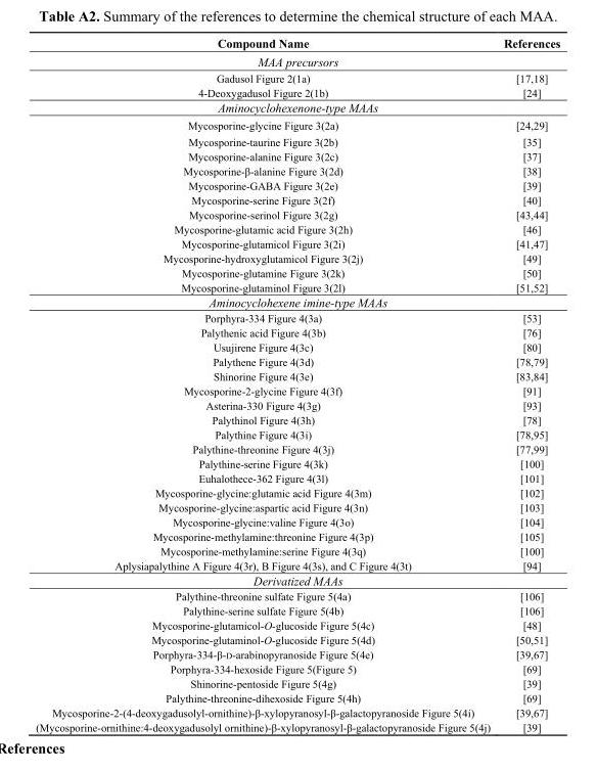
<table><thead><tr><td>Compound Name</td><td>References</td></tr></thead><tbody><tr><td colspan="2">MAA precursors</td></tr><tr><td>Gadusol Figure 2(1a)</td><td>[17,18]</td></tr><tr><td>4-Deoxygadusol Figure 2(1b)</td><td>[24]</td></tr><tr><td colspan="2">Aminocyclohexenone-type MAAs</td></tr><tr><td>Mycosporine-glycine Figure 3(2a)</td><td>[24,29]</td></tr><tr><td>Mycosporine-taurine Figure 3(2b)</td><td>[35]</td></tr><tr><td>Mycosporine-alanine Figure 3(2c)</td><td>[37]</td></tr><tr><td>Mycosporine-β-alanine Figure 3(2d)</td><td>[38]</td></tr><tr><td>Mycosporine-GABA Figure 3(2e)</td><td>[39]</td></tr><tr><td>Mycosporine-serine Figure 3(2f)</td><td>[40]</td></tr><tr><td>Mycosporine-serinol Figure 3(2g)</td><td>[43,44]</td></tr><tr><td>Mycosporine-glutamic acid Figure 3(2h)</td><td>[46]</td></tr><tr><td>Mycosporine-glutamicol Figure 3(2i)</td><td>[41,47]</td></tr><tr><td>Mycosporine-hydroxyglutamicol Figure 3(2j)</td><td>[49]</td></tr><tr><td>Mycosporine-glutamine Figure 3(2k)</td><td>[50]</td></tr><tr><td>Mycosporine-glutaminol Figure 3(2l)</td><td>[51,52]</td></tr><tr><td colspan="2">Aminocyclohexene imine-type MAAs</td></tr><tr><td>Porphyra-334 Figure 4(3a)</td><td>[53]</td></tr><tr><td>Palythenic acid Figure 4(3b)</td><td>[76]</td></tr><tr><td>Usujirene Figure 4(3c)</td><td>[80]</td></tr><tr><td>Palythene Figure 4(3d)</td><td>[78,79]</td></tr><tr><td>Shinorine Figure 4(3e)</td><td>[83,84]</td></tr><tr><td>Mycosporine-2-glycine Figure 4(3f)</td><td>[91]</td></tr><tr><td>Asterina-330 Figure 4(3g)</td><td>[93]</td></tr><tr><td>Palythinol Figure 4(3h)</td><td>[78]</td></tr><tr><td>Palythine Figure 4(3i)</td><td>[78,95]</td></tr><tr><td>Palythine-threonine Figure 4(3j)</td><td>[77,99]</td></tr><tr><td>Palythine-serine Figure 4(3k)</td><td>[100]</td></tr><tr><td>Euhalothece-362 Figure 4(3l)</td><td>[101]</td></tr><tr><td>Mycosporine-glycine:glutamic acid Figure 4(3m)</td><td>[102]</td></tr><tr><td>Mycosporine-glycine:aspartic acid Figure 4(3n)</td><td>[103]</td></tr><tr><td>Mycosporine-glycine:valine Figure 4(3o)</td><td>[104]</td></tr><tr><td>Mycosporine-methylamine:threonine Figure 4(3p)</td><td>[105]</td></tr><tr><td>Mycosporine-methylamine:serine Figure 4(3q)</td><td>[100]</td></tr><tr><td>Aplysiapalythine A Figure 4(3r), B Figure 4(3s), and C Figure 4(3t)</td><td>[94]</td></tr><tr><td colspan="2">Derivatized MAAs</td></tr><tr><td>Palythine-threonine sulfate Figure 5(4a)</td><td>[106]</td></tr><tr><td>Palythine-serine sulfate Figure 5(4b)</td><td>[106]</td></tr><tr><td>Mycosporine-glutamicol-O-glucoside Figure 5(4c)</td><td>[48]</td></tr><tr><td>Mycosporine-glutaminol-O-glucoside Figure 5(4d)</td><td>[50,51]</td></tr><tr><td>Porphyra-334-β-D-arabinopyranoside Figure 5(4e)</td><td>[39,67]</td></tr><tr><td>Porphyra-334-hexoside Figure 5(Figure 5)</td><td>[69]</td></tr><tr><td>Shinorine-pentoside Figure 5(4g)</td><td>[39]</td></tr><tr><td>Palythine-threonine-dihexoside Figure 5(4h)</td><td>[69]</td></tr><tr><td>Mycosporine-2-(4-deoxygadusolyl-ornithine)-β-xylopyranosyl-β-galactopyranoside Figure 5(4i)</td><td>[39,67]</td></tr><tr><td>(Mycosporine-ornithine:4-deoxygadusolyl ornithine)-β-xylopyranosyl-β-galactopyranoside Figure 5(4j)</td><td>[39]</td></tr></tbody></table>